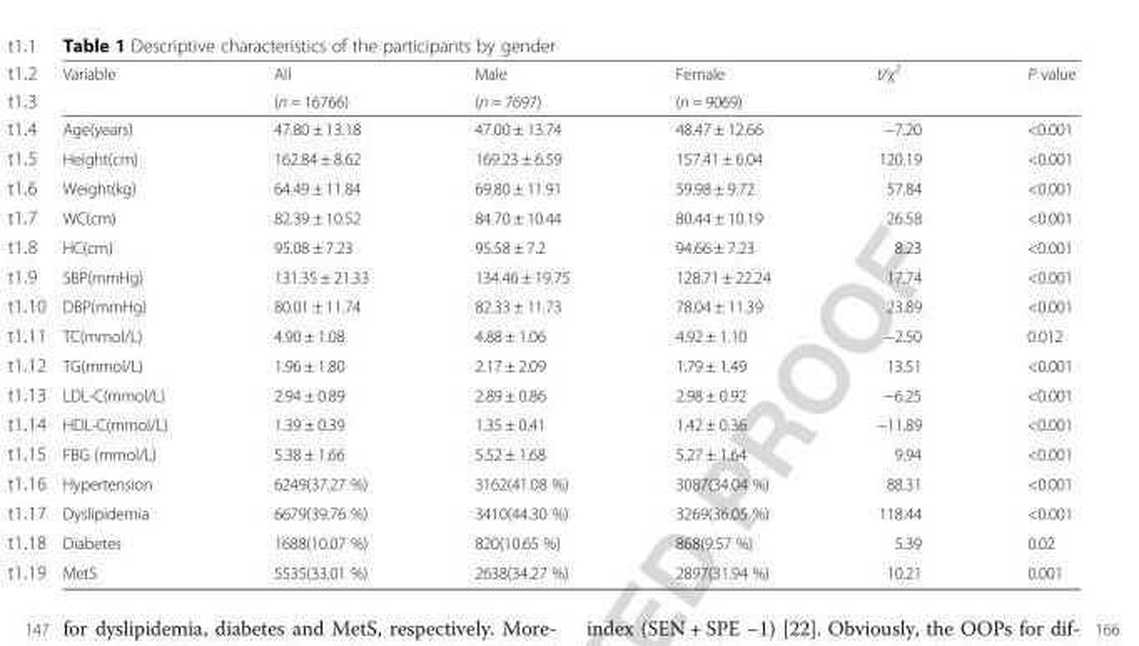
<table><thead><tr><td rowspan="2">Variable</td><td rowspan="2">All (n = 16766)</td><td rowspan="2">Male (n = 7697)</td><td rowspan="2">Female (n = 9069)</td><td rowspan="2">t/χ<sup>2</sup></td><td rowspan="2">P value</td></tr><tr></tr></thead><tbody><tr><td>Age(years)</td><td>47.80 ± 13.18</td><td>47.00 ± 13.74</td><td>48.47 ± 12.66</td><td>−7.20</td><td>&lt;0.001</td></tr><tr><td>Height(cm)</td><td>162.84 ± 8.62</td><td>169.23 ± 6.59</td><td>157.41 ± 6.04</td><td>120.19</td><td>&lt;0.001</td></tr><tr><td>Weight(kg)</td><td>64.49 ± 11.84</td><td>69.80 ± 11.91</td><td>59.98 ± 9.72</td><td>57.84</td><td>&lt;0.001</td></tr><tr><td>WC(cm)</td><td>82.39 ± 10.52</td><td>84.70 ± 10.44</td><td>80.44 ± 10.19</td><td>26.58</td><td>&lt;0.001</td></tr><tr><td>HC(cm)</td><td>95.08 ± 7.23</td><td>95.58 ± 7.2</td><td>94.66 ± 7.23</td><td>8.23</td><td>&lt;0.001</td></tr><tr><td>SBP(mmHg)</td><td>131.35 ± 21.33</td><td>134.46 ± 19.75</td><td>128.71 ± 22.24</td><td>17.74</td><td>&lt;0.001</td></tr><tr><td>DBP(mmHg)</td><td>80.01 ± 11.74</td><td>82.33 ± 11.73</td><td>78.04 ± 11.39</td><td>23.89</td><td>&lt;0.001</td></tr><tr><td>TC(mmol/L)</td><td>4.90 ± 1.08</td><td>4.88 ± 1.06</td><td>4.92 ± 1.10</td><td>−2.50</td><td>0.012</td></tr><tr><td>TG(mmol/L)</td><td>1.96 ± 1.80</td><td>2.17 ± 2.09</td><td>1.79 ± 1.49</td><td>13.51</td><td>&lt;0.001</td></tr><tr><td>LDL-C(mmol/L)</td><td>2.94 ± 0.89</td><td>2.89 ± 0.86</td><td>2.98 ± 0.92</td><td>−6.25</td><td>&lt;0.001</td></tr><tr><td>HDL-C(mmol/L)</td><td>1.39 ± 0.39</td><td>1.35 ± 0.41</td><td>1.42 ± 0.36</td><td>−11.89</td><td>&lt;0.001</td></tr><tr><td>FBG (mmol/L)</td><td>5.38 ± 1.66</td><td>5.52 ± 1.68</td><td>5.27 ± 1.64</td><td>9.94</td><td>&lt;0.001</td></tr><tr><td>Hypertension</td><td>6249(37.27 %)</td><td>3162(41.08 %)</td><td>3087(34.04 %)</td><td>88.31</td><td>&lt;0.001</td></tr><tr><td>Dyslipidemia</td><td>6679(39.76 %)</td><td>3410(44.30 %)</td><td>3269(36.05 %)</td><td>118.44</td><td>&lt;0.001</td></tr><tr><td>Diabetes</td><td>1688(10.07 %)</td><td>820(10.65 %)</td><td>868(9.57 %)</td><td>5.39</td><td>0.02</td></tr><tr><td>MetS</td><td>5535(33.01 %)</td><td>2638(34.27 %)</td><td>2897(31.94 %)</td><td>10.21</td><td>0.001</td></tr></tbody></table>